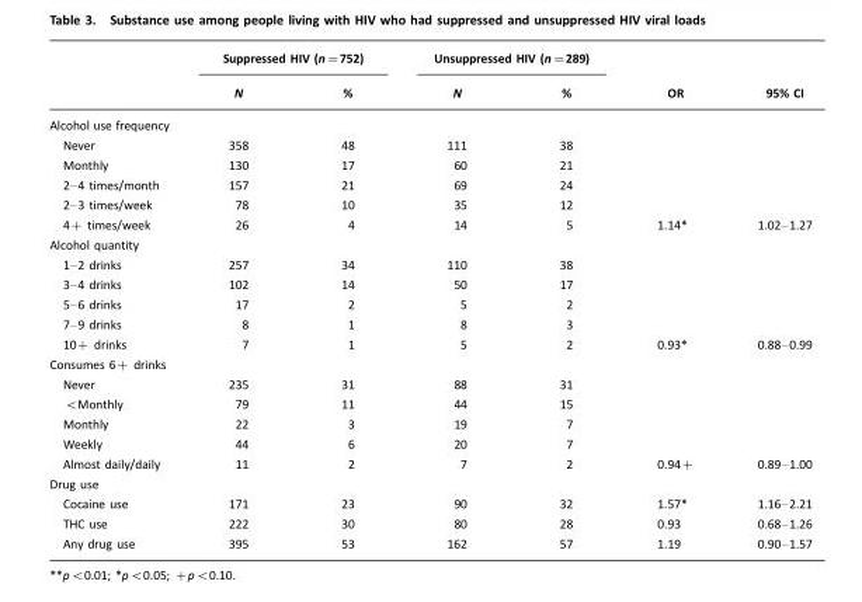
<table><thead><tr><td rowspan="2"></td><td colspan="2">Suppressed HIV (n=752)</td><td colspan="2">Unsuppressed HIV (n=289)</td><td rowspan="2">OR</td><td rowspan="2">95% CI</td></tr><tr><td>N</td><td>%</td><td>N</td><td>%</td></tr></thead><tbody><tr><td colspan="7">Alcohol use frequency</td></tr><tr><td>Never</td><td>358</td><td>48</td><td>111</td><td>38</td><td></td><td></td></tr><tr><td>Monthly</td><td>130</td><td>17</td><td>60</td><td>21</td><td></td><td></td></tr><tr><td>2–4 times/month</td><td>157</td><td>21</td><td>69</td><td>24</td><td></td><td></td></tr><tr><td>2–3 times/week</td><td>78</td><td>10</td><td>35</td><td>12</td><td></td><td></td></tr><tr><td>4+ times/week</td><td>26</td><td>4</td><td>14</td><td>5</td><td>1.14*</td><td>1.02–1.27</td></tr><tr><td colspan="7">Alcohol quantity</td></tr><tr><td>1–2 drinks</td><td>257</td><td>34</td><td>110</td><td>38</td><td></td><td></td></tr><tr><td>3–4 drinks</td><td>102</td><td>14</td><td>50</td><td>17</td><td></td><td></td></tr><tr><td>5–6 drinks</td><td>17</td><td>2</td><td>5</td><td>2</td><td></td><td></td></tr><tr><td>7–9 drinks</td><td>8</td><td>1</td><td>8</td><td>3</td><td></td><td></td></tr><tr><td>10+ drinks</td><td>7</td><td>1</td><td>5</td><td>2</td><td>0.93*</td><td>0.88–0.99</td></tr><tr><td colspan="7">Consumes 6+ drinks</td></tr><tr><td>Never</td><td>235</td><td>31</td><td>88</td><td>31</td><td></td><td></td></tr><tr><td>&lt;Monthly</td><td>79</td><td>11</td><td>44</td><td>15</td><td></td><td></td></tr><tr><td>Monthly</td><td>22</td><td>3</td><td>19</td><td>7</td><td></td><td></td></tr><tr><td>Weekly</td><td>44</td><td>6</td><td>20</td><td>7</td><td></td><td></td></tr><tr><td>Almost daily/daily</td><td>11</td><td>2</td><td>7</td><td>2</td><td>0.94+</td><td>0.89–1.00</td></tr><tr><td colspan="7">Drug use</td></tr><tr><td>Cocaine use</td><td>171</td><td>23</td><td>90</td><td>32</td><td>1.57*</td><td>1.16–2.21</td></tr><tr><td>THC use</td><td>222</td><td>30</td><td>80</td><td>28</td><td>0.93</td><td>0.68–1.26</td></tr><tr><td>Any drug use</td><td>395</td><td>53</td><td>162</td><td>57</td><td>1.19</td><td>0.90–1.57</td></tr></tbody></table>